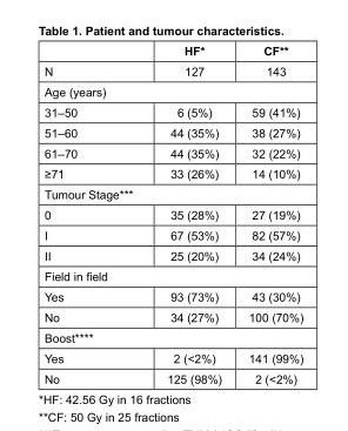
<table><thead><tr><td></td><td>HF*</td><td>CF**</td></tr></thead><tbody><tr><td>N</td><td>127</td><td>143</td></tr><tr><td colspan="3">Age (years)</td></tr><tr><td>31–50</td><td>6 (5%)</td><td>59 (41%)</td></tr><tr><td>51–60</td><td>44 (35%)</td><td>38 (27%)</td></tr><tr><td>61–70</td><td>44 (35%)</td><td>32 (22%)</td></tr><tr><td>≥71</td><td>33 (26%)</td><td>14 (10%)</td></tr><tr><td colspan="3">Tumour Stage***</td></tr><tr><td>0</td><td>35 (28%)</td><td>27 (19%)</td></tr><tr><td>I</td><td>67 (53%)</td><td>82 (57%)</td></tr><tr><td>II</td><td>25 (20%)</td><td>34 (24%)</td></tr><tr><td colspan="3">Field in field</td></tr><tr><td>Yes</td><td>93 (73%)</td><td>43 (30%)</td></tr><tr><td>No</td><td>34 (27%)</td><td>100 (70%)</td></tr><tr><td colspan="3">Boost****</td></tr><tr><td>Yes</td><td>2 (&lt;2%)</td><td>141 (99%)</td></tr><tr><td>No</td><td>125 (98%)</td><td>2 (&lt;2%)</td></tr></tbody></table>